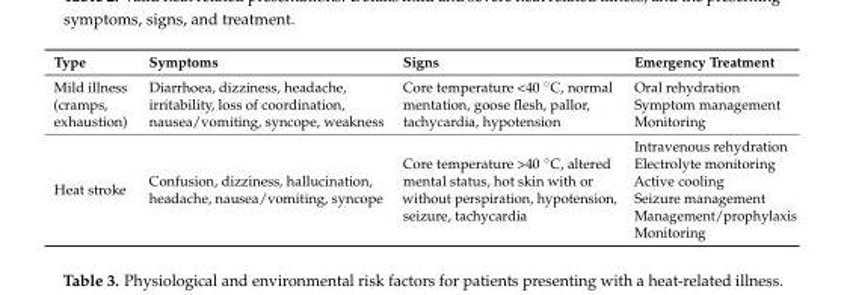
<table><thead><tr><td>Type</td><td>Symptoms</td><td>Signs</td><td>Emergency Treatment</td></tr></thead><tbody><tr><td>Mild illness (cramps, exhaustion)</td><td>Diarrhoea, dizziness, headache, irritability, loss of coordination, nausea/vomiting, syncope, weakness</td><td>Core temperature &lt;40 ˝C, normal mentation, goose flesh, pallor, tachycardia, hypotension</td><td>Oral rehydration Symptom management Monitoring</td></tr><tr><td>Heat stroke</td><td>Confusion, dizziness, hallucination, headache, nausea/vomiting, syncope</td><td>Core temperature &gt;40 ˝C, altered mental status, hot skin with or without perspiration, hypotension, seizure, tachycardia</td><td>Intravenous rehydration Electrolyte monitoring Active cooling Seizure management Management/prophylaxis Monitoring</td></tr></tbody></table>